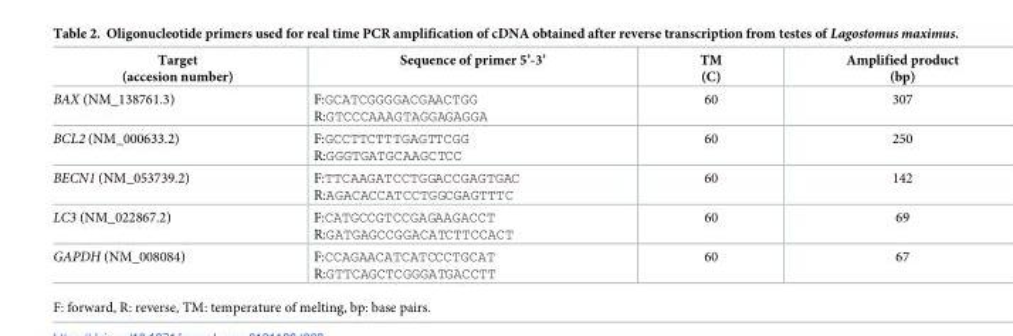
<table><thead><tr><td>Target (accesion number)</td><td>Sequence of primer 5’-3’</td><td>TM (C)</td><td>Amplified product (bp)</td></tr></thead><tbody><tr><td>BAX (NM_138761.3)</td><td>F:GCATCGGGGACGAACTGG R:GTCCCAAAGTAGGAGAGGA</td><td>60</td><td>307</td></tr><tr><td>BCL2 (NM_000633.2)</td><td>F:GCCTTCTTTGAGTTCGG R:GGGTGATGCAAGCTCC</td><td>60</td><td>250</td></tr><tr><td>BECN1 (NM_053739.2)</td><td>F:TTCAAGATCCTGGACCGAGTGAC R:AGACACCATCCTGGCGAGTTTC</td><td>60</td><td>142</td></tr><tr><td>LC3 (NM_022867.2)</td><td>F:CATGCCGTCCGAGAAGACCT R:GATGAGCCGGACATCTTCCACT</td><td>60</td><td>69</td></tr><tr><td>GAPDH (NM_008084)</td><td>F:CCAGAACATCATCCCTGCAT R:GTTCAGCTCGGGATGACCTT</td><td>60</td><td>67</td></tr></tbody></table>